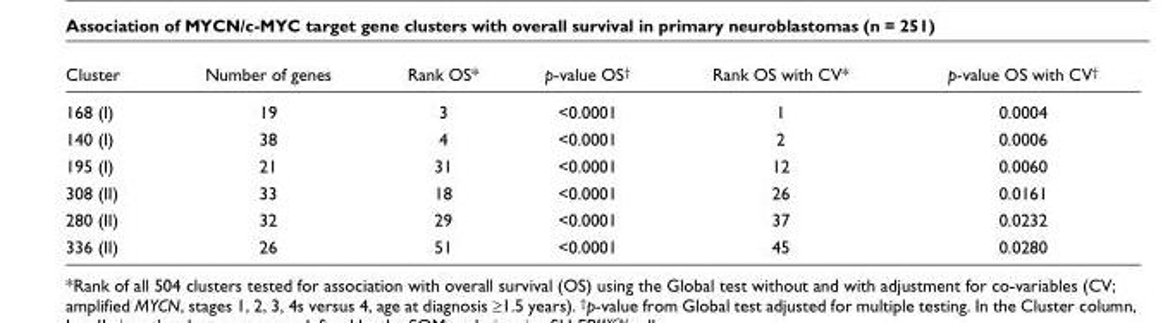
<table><thead><tr><td>Cluster</td><td>Number of genes</td><td>Rank OS*</td><td>p-value OS<sup>†</sup></td><td>Rank OS with CV*</td><td>p-value OS with CV<sup>†</sup></td></tr></thead><tbody><tr><td>168 (I)</td><td>19</td><td>3</td><td>&lt;0.0001</td><td>1</td><td>0.0004</td></tr><tr><td>140 (I)</td><td>38</td><td>4</td><td>&lt;0.0001</td><td>2</td><td>0.0006</td></tr><tr><td>195 (I)</td><td>21</td><td>31</td><td>&lt;0.0001</td><td>12</td><td>0.0060</td></tr><tr><td>308 (II)</td><td>33</td><td>18</td><td>&lt;0.0001</td><td>26</td><td>0.0161</td></tr><tr><td>280 (II)</td><td>32</td><td>29</td><td>&lt;0.0001</td><td>37</td><td>0.0232</td></tr><tr><td>336 (II)</td><td>26</td><td>51</td><td>&lt;0.0001</td><td>45</td><td>0.0280</td></tr></tbody></table>